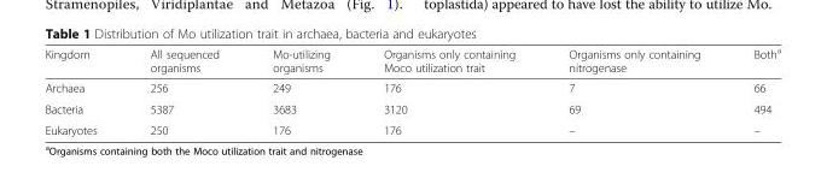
<table><thead><tr><td>Kingdom</td><td>All sequenced organisms</td><td>Mo-utilizing organisms</td><td>Organisms only containing Moco utilization trait</td><td>Organisms only containing nitrogenase</td><td>Both<sup>a</sup></td></tr></thead><tbody><tr><td>Archaea</td><td>256</td><td>249</td><td>176</td><td>7</td><td>66</td></tr><tr><td>Bacteria</td><td>5387</td><td>3683</td><td>3120</td><td>69</td><td>494</td></tr><tr><td>Eukaryotes</td><td>250</td><td>176</td><td>176</td><td>–</td><td>–</td></tr></tbody></table>